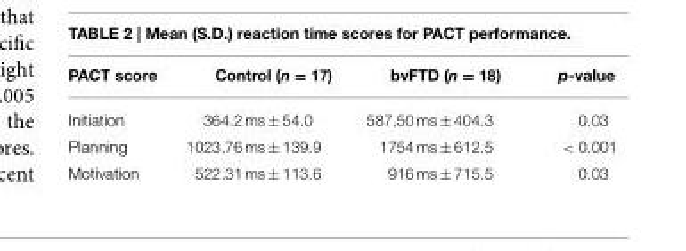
<table><thead><tr><td>PACT score</td><td>Control (n = 17)</td><td>bvFTD (n = 18)</td><td>p-value</td></tr></thead><tbody><tr><td>Initiation</td><td>364.2 ms ± 54.0</td><td>587.50 ms ± 404.3</td><td>0.03</td></tr><tr><td>Planning</td><td>1023.76 ms ± 139.9</td><td>1754 ms ± 612.5</td><td>&lt; 0.001</td></tr><tr><td>Motivation</td><td>522.31 ms ± 113.6</td><td>916 ms ± 715.5</td><td>0.03</td></tr></tbody></table>